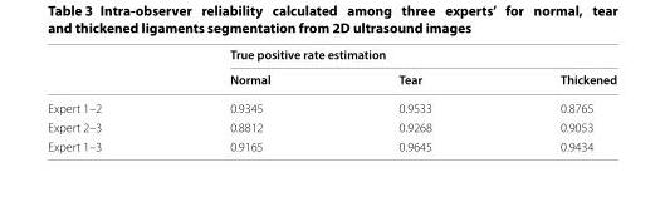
<table><thead><tr><td rowspan="2"></td><td colspan="3">True positive rate estimation</td></tr><tr><td>Normal</td><td>Tear</td><td>Thickened</td></tr></thead><tbody><tr><td>Expert 1–2</td><td>0.9345</td><td>0.9533</td><td>0.8765</td></tr><tr><td>Expert 2–3</td><td>0.8812</td><td>0.9268</td><td>0.9053</td></tr><tr><td>Expert 1–3</td><td>0.9165</td><td>0.9645</td><td>0.9434</td></tr></tbody></table>